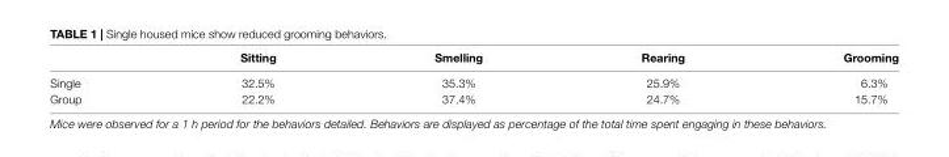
<table><thead><tr><td></td><td>Sitting</td><td>Smelling</td><td>Rearing</td><td>Grooming</td></tr></thead><tbody><tr><td>Single</td><td>32.5%</td><td>35.3%</td><td>25.9%</td><td>6.3%</td></tr><tr><td>Group</td><td>22.2%</td><td>37.4%</td><td>24.7%</td><td>15.7%</td></tr></tbody></table>